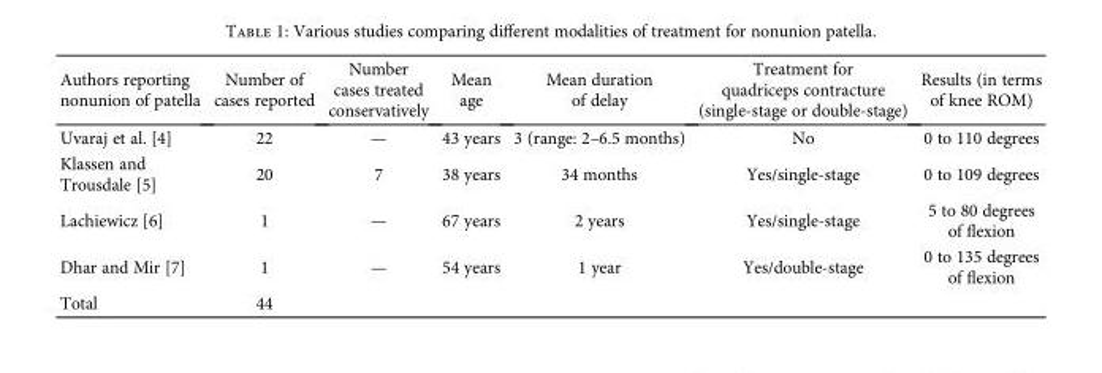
<table><thead><tr><td>Authors reporting nonunion of patella</td><td>Number of cases reported</td><td>Number cases treated conservatively</td><td>Mean age</td><td>Mean duration of delay</td><td>Treatment for quadriceps contracture (single-stage or double-stage)</td><td>Results (in terms of knee ROM)</td></tr></thead><tbody><tr><td>Uvaraj et al. [4]</td><td>22</td><td>—</td><td>43 years</td><td>3 (range: 2–6.5 months)</td><td>No</td><td>0 to 110 degrees</td></tr><tr><td>Klassen and Trousdale [5]</td><td>20</td><td>7</td><td>38 years</td><td>34 months</td><td>Yes/single-stage</td><td>0 to 109 degrees</td></tr><tr><td>Lachiewicz [6]</td><td>1</td><td>—</td><td>67 years</td><td>2 years</td><td>Yes/single-stage</td><td>5 to 80 degrees of flexion</td></tr><tr><td>Dhar and Mir [7]</td><td>1</td><td>—</td><td>54 years</td><td>1 year</td><td>Yes/double-stage</td><td>0 to 135 degrees of flexion</td></tr><tr><td>Total</td><td>44</td><td></td><td></td><td></td><td></td><td></td></tr></tbody></table>